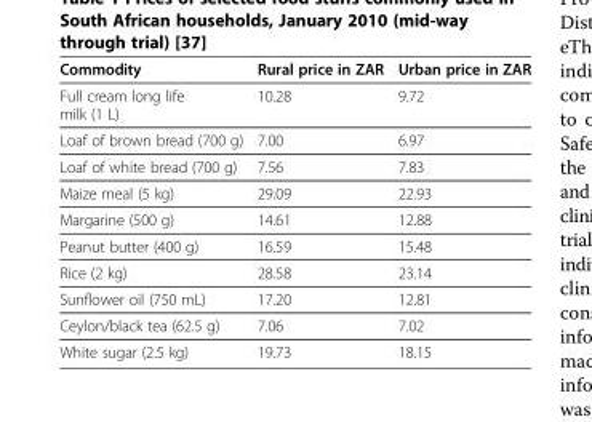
<table><thead><tr><td>Commodity</td><td>Rural price in ZAR</td><td>Urban price in ZAR</td></tr></thead><tbody><tr><td>Full cream long life milk (1 L)</td><td>10.28</td><td>9.72</td></tr><tr><td>Loaf of brown bread (700 g)</td><td>7.00</td><td>6.97</td></tr><tr><td>Loaf of white bread (700 g)</td><td>7.56</td><td>7.83</td></tr><tr><td>Maize meal (5 kg)</td><td>29.09</td><td>22.93</td></tr><tr><td>Margarine (500 g)</td><td>14.61</td><td>12.88</td></tr><tr><td>Peanut butter (400 g)</td><td>16.59</td><td>15.48</td></tr><tr><td>Rice (2 kg)</td><td>28.58</td><td>23.14</td></tr><tr><td>Sunflower oil (750 mL)</td><td>17.20</td><td>12.81</td></tr><tr><td>Ceylon/black tea (62.5 g)</td><td>7.06</td><td>7.02</td></tr><tr><td>White sugar (2.5 kg)</td><td>19.73</td><td>18.15</td></tr></tbody></table>